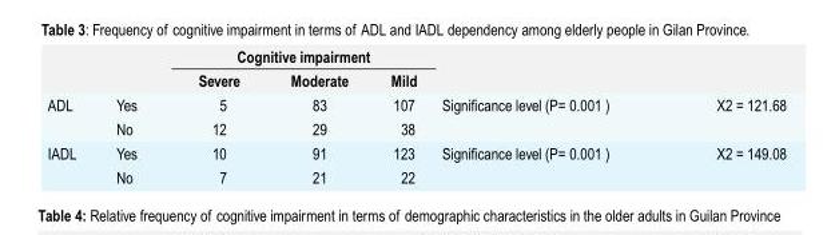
<table><thead><tr><td rowspan="2"></td><td rowspan="2"></td><td colspan="3">Cognitive impairment</td><td rowspan="2"></td><td rowspan="2"></td></tr><tr><td>Severe</td><td>Moderate</td><td>Mild</td></tr></thead><tbody><tr><td rowspan="2">ADL</td><td>Yes</td><td>5</td><td>83</td><td>107</td><td>Significance level (P= 0.001 )</td><td>X2 = 121.68</td></tr><tr><td>No</td><td>12</td><td>29</td><td>38</td><td></td><td></td></tr><tr><td rowspan="2">IADL</td><td>Yes</td><td>10</td><td>91</td><td>123</td><td>Significance level (P= 0.001 )</td><td>X2 = 149.08</td></tr><tr><td>No</td><td>7</td><td>21</td><td>22</td><td></td><td></td></tr></tbody></table>